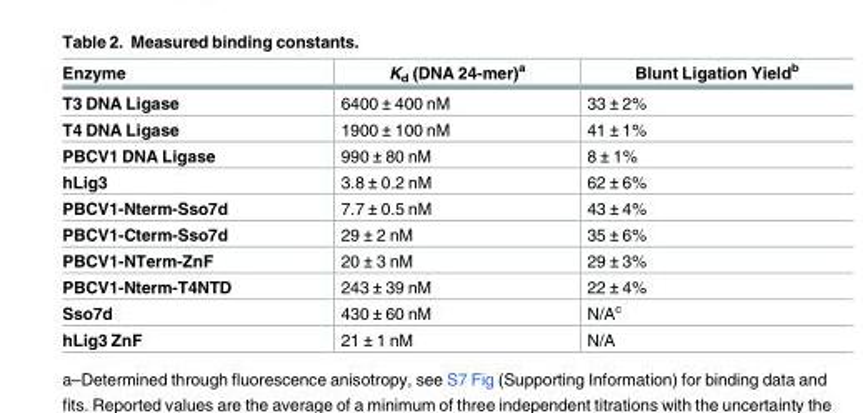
<table><thead><tr><td>Enzyme</td><td>K<sub>d</sub> (DNA 24-mer)<sup>a</sup></td><td>Blunt Ligation Yield<sup>b</sup></td></tr></thead><tbody><tr><td>T3 DNA Ligase</td><td>6400 ± 400 nM</td><td>33 ± 2%</td></tr><tr><td>T4 DNA Ligase</td><td>1900 ± 100 nM</td><td>41 ± 1%</td></tr><tr><td>PBCV1 DNA Ligase</td><td>990 ± 80 nM</td><td>8 ± 1%</td></tr><tr><td>hLig3</td><td>3.8 ± 0.2 nM</td><td>62 ± 6%</td></tr><tr><td>PBCV1-Nterm-Sso7d</td><td>7.7 ± 0.5 nM</td><td>43 ± 4%</td></tr><tr><td>PBCV1-Cterm-Sso7d</td><td>29 ± 2 nM</td><td>35 ± 6%</td></tr><tr><td>PBCV1-NTerm-ZnF</td><td>20 ± 3 nM</td><td>29 ± 3%</td></tr><tr><td>PBCV1-Nterm-T4NTD</td><td>243 ± 39 nM</td><td>22 ± 4%</td></tr><tr><td>Sso7d</td><td>430 ± 60 nM</td><td>N/A<sup>c</sup></td></tr><tr><td>hLig3 ZnF</td><td>21 ± 1 nM</td><td>N/A</td></tr></tbody></table>